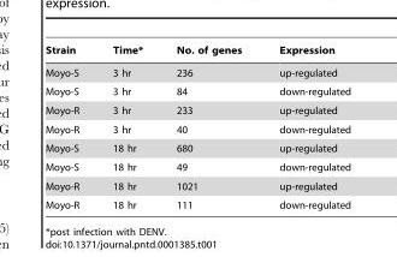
<table><thead><tr><td>Strain</td><td>Time*</td><td>No. of genes</td><td>Expression</td></tr></thead><tbody><tr><td>Moyo-S</td><td>3 hr</td><td>236</td><td>up-regulated</td></tr><tr><td>Moyo-S</td><td>3 hr</td><td>84</td><td>down-regulated</td></tr><tr><td>Moyo-R</td><td>3 hr</td><td>233</td><td>up-regulated</td></tr><tr><td>Moyo-R</td><td>3 hr</td><td>40</td><td>down-regulated</td></tr><tr><td>Moyo-S</td><td>18 hr</td><td>680</td><td>up-regulated</td></tr><tr><td>Moyo-S</td><td>18 hr</td><td>49</td><td>down-regulated</td></tr><tr><td>Moyo-R</td><td>18 hr</td><td>1021</td><td>up-regulated</td></tr><tr><td>Moyo-R</td><td>18 hr</td><td>111</td><td>down-regulated</td></tr></tbody></table>